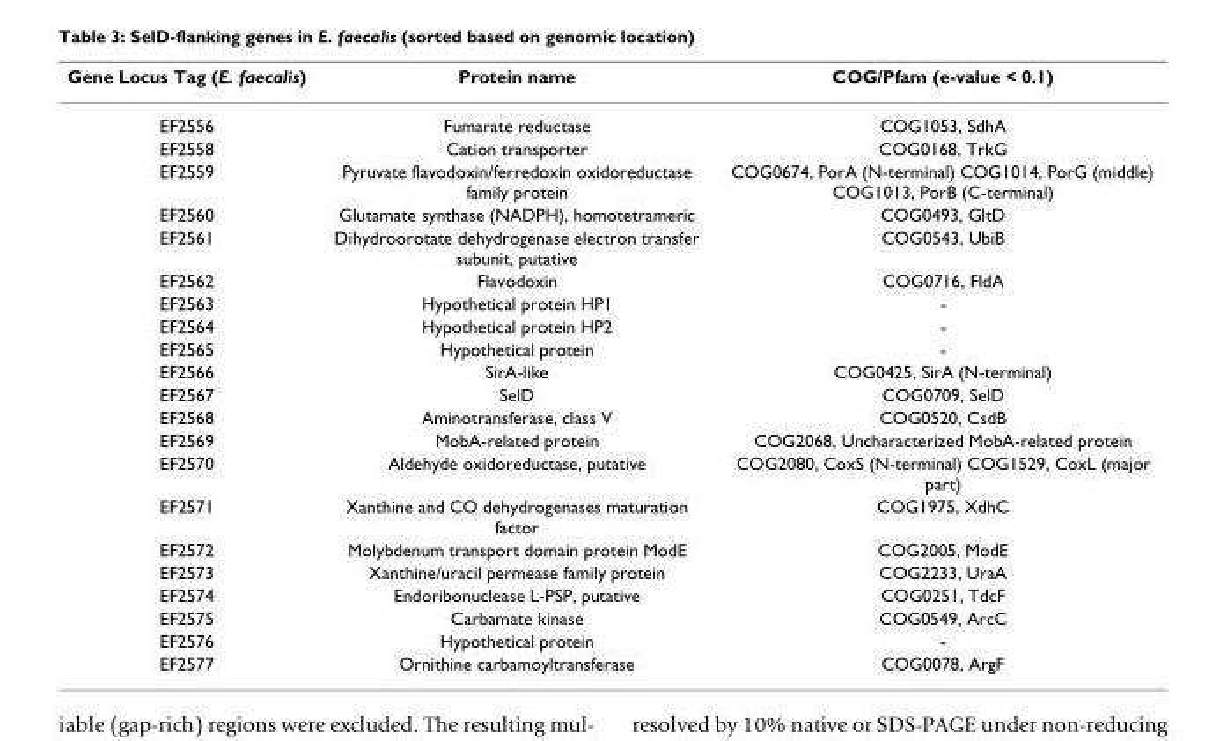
<table><thead><tr><td>Gene Locus Tag (E. faecalis)</td><td>Protein name</td><td>COG/Pfam (e-value &lt; 0.1)</td></tr></thead><tbody><tr><td>EF2556</td><td>Fumarate reductase</td><td>COG1053, SdhA</td></tr><tr><td>EF2558</td><td>Cation transporter</td><td>COG0168, TrkG</td></tr><tr><td>EF2559</td><td>Pyruvate flavodoxin/ferredoxin oxidoreductase family protein</td><td>COG0674, PorA (N-terminal) COG1014, PorG (middle) COG1013, PorB (C-terminal)</td></tr><tr><td>EF2560</td><td>Glutamate synthase (NADPH), homotetrameric</td><td>COG0493, GltD</td></tr><tr><td>EF2561</td><td>Dihydroorotate dehydrogenase electron transfer subunit, putative</td><td>COG0543, UbiB</td></tr><tr><td>EF2562</td><td>Flavodoxin</td><td>COG0716, FldA</td></tr><tr><td>EF2563</td><td>Hypothetical protein HP1</td><td>-</td></tr><tr><td>EF2564</td><td>Hypothetical protein HP2</td><td>-</td></tr><tr><td>EF2565</td><td>Hypothetical protein</td><td>-</td></tr><tr><td>EF2566</td><td>SirA-like</td><td>COG0425, SirA (N-terminal)</td></tr><tr><td>EF2567</td><td>SelD</td><td>COG0709, SelD</td></tr><tr><td>EF2568</td><td>Aminotransferase, class V</td><td>COG0520, CsdB</td></tr><tr><td>EF2569</td><td>MobA-related protein</td><td>COG2068, Uncharacterized MobA-related protein</td></tr><tr><td>EF2570</td><td>Aldehyde oxidoreductase, putative</td><td>COG2080, CoxS (N-terminal) COG1529, CoxL (major part)</td></tr><tr><td>EF2571</td><td>Xanthine and CO dehydrogenases maturation factor</td><td>COG1975, XdhC</td></tr><tr><td>EF2572</td><td>Molybdenum transport domain protein ModE</td><td>COG2005, ModE</td></tr><tr><td>EF2573</td><td>Xanthine/uracil permease family protein</td><td>COG2233, UraA</td></tr><tr><td>EF2574</td><td>Endoribonuclease L-PSP, putative</td><td>COG0251, TdcF</td></tr><tr><td>EF2575</td><td>Carbamate kinase</td><td>COG0549, ArcC</td></tr><tr><td>EF2576</td><td>Hypothetical protein</td><td>-</td></tr><tr><td>EF2577</td><td>Ornithine carbamoyltransferase</td><td>COG0078, ArgF</td></tr></tbody></table>